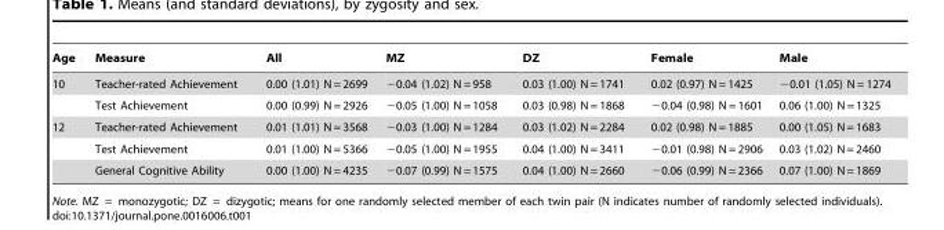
<table><thead><tr><td>Age</td><td>Measure</td><td>All</td><td>MZ</td><td>DZ</td><td>Female</td><td>Male</td></tr></thead><tbody><tr><td rowspan="2">10</td><td>Teacher-rated Achievement</td><td>0.00 (1.01) N = 2699</td><td>−0.04 (1.02) N = 958</td><td>0.03 (1.00) N = 1741</td><td>0.02 (0.97) N = 1425</td><td>−0.01 (1.05) N = 1274</td></tr><tr><td>Test Achievement</td><td>0.00 (0.99) N = 2926</td><td>−0.05 (1.00) N = 1058</td><td>0.03 (0.98) N = 1868</td><td>−0.04 (0.98) N = 1601</td><td>0.06 (1.00) N = 1325</td></tr><tr><td rowspan="3">12</td><td>Teacher-rated Achievement</td><td>0.01 (1.01) N = 3568</td><td>−0.03 (1.00) N = 1284</td><td>0.03 (1.02) N = 2284</td><td>0.02 (0.98) N = 1885</td><td>0.00 (1.05) N = 1683</td></tr><tr><td>Test Achievement</td><td>0.01 (1.00) N = 5366</td><td>−0.05 (1.00) N = 1955</td><td>0.04 (1.00) N = 3411</td><td>−0.01 (0.98) N = 2906</td><td>0.03 (1.02) N = 2460</td></tr><tr><td>General Cognitive Ability</td><td>0.00 (1.00) N = 4235</td><td>−0.07 (0.99) N = 1575</td><td>0.04 (1.00) N = 2660</td><td>−0.06 (0.99) N = 2366</td><td>0.07 (1.00) N = 1869</td></tr></tbody></table>